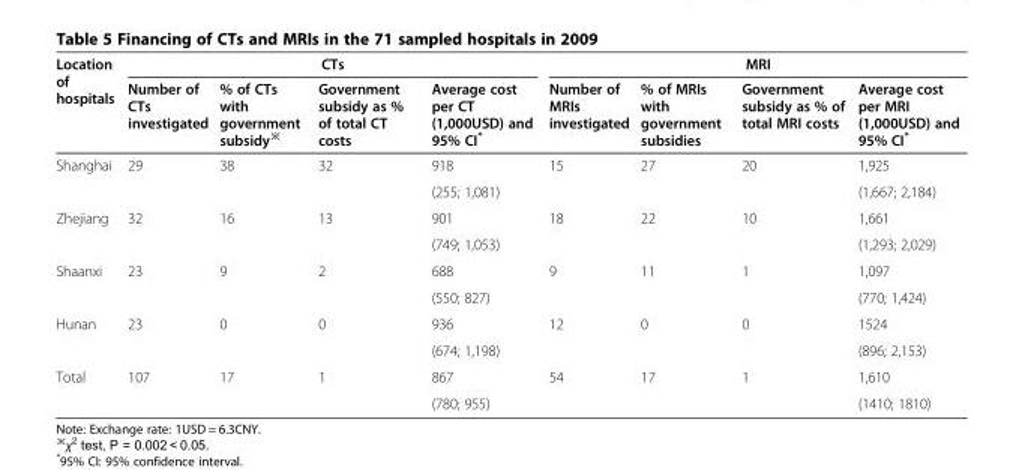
<table><thead><tr><td rowspan="2">Location of hospitals</td><td colspan="4">CTs</td><td colspan="4">MRI</td></tr><tr><td>Number of CTs investigated</td><td>% of CTs with government subsidy<sup>※</sup></td><td>Government subsidy as % of total CT costs</td><td>Average cost per CT (1,000USD) and 95% CI*</td><td>Number of MRIs investigated</td><td>% of MRIs with government subsidies</td><td>Government subsidy as % of total MRI costs</td><td>Average cost per MRI (1,000USD) and 95% CI*</td></tr></thead><tbody><tr><td rowspan="2">Shanghai</td><td rowspan="2">29</td><td rowspan="2">38</td><td rowspan="2">32</td><td>918</td><td rowspan="2">15</td><td rowspan="2">27</td><td rowspan="2">20</td><td>1,925</td></tr><tr><td>(255; 1,081)</td><td>(1,667; 2,184)</td></tr><tr><td rowspan="2">Zhejiang</td><td rowspan="2">32</td><td rowspan="2">16</td><td rowspan="2">13</td><td>901</td><td rowspan="2">18</td><td rowspan="2">22</td><td rowspan="2">10</td><td>1,661</td></tr><tr><td>(749; 1,053)</td><td>(1,293; 2,029)</td></tr><tr><td rowspan="2">Shaanxi</td><td rowspan="2">23</td><td rowspan="2">9</td><td rowspan="2">2</td><td>688</td><td rowspan="2">9</td><td rowspan="2">11</td><td rowspan="2">1</td><td>1,097</td></tr><tr><td>(550; 827)</td><td>(770; 1,424)</td></tr><tr><td rowspan="2">Hunan</td><td rowspan="2">23</td><td rowspan="2">0</td><td rowspan="2">0</td><td>936</td><td rowspan="2">12</td><td rowspan="2">0</td><td rowspan="2">0</td><td>1524</td></tr><tr><td>(674; 1,198)</td><td>(896; 2,153)</td></tr><tr><td rowspan="2">Total</td><td rowspan="2">107</td><td rowspan="2">17</td><td rowspan="2">1</td><td>867</td><td rowspan="2">54</td><td rowspan="2">17</td><td rowspan="2">1</td><td>1,610</td></tr><tr><td>(780; 955)</td><td>(1410; 1810)</td></tr></tbody></table>